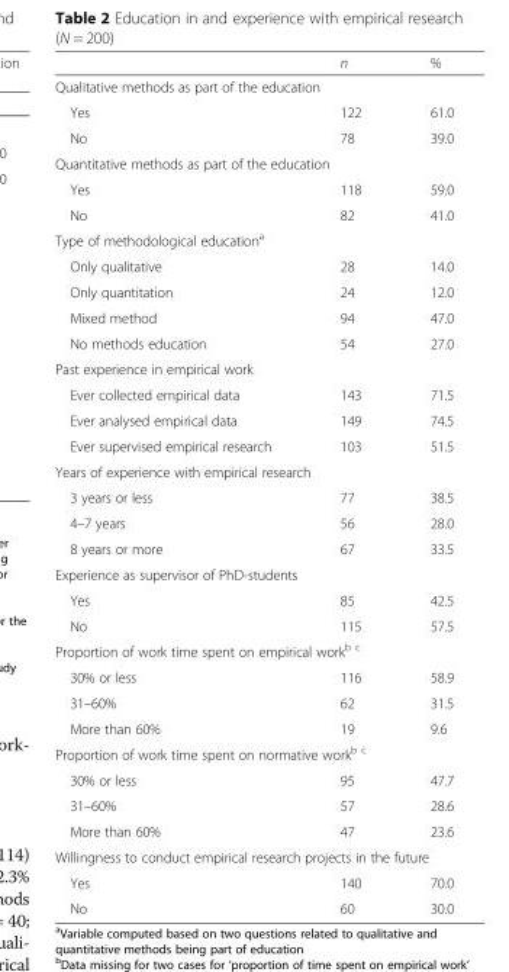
<table><thead><tr><td></td><td>n</td><td>%</td></tr></thead><tbody><tr><td colspan="3">Qualitative methods as part of the education</td></tr><tr><td>Yes</td><td>122</td><td>61.0</td></tr><tr><td>No</td><td>78</td><td>39.0</td></tr><tr><td colspan="3">Quantitative methods as part of the education</td></tr><tr><td>Yes</td><td>118</td><td>59.0</td></tr><tr><td>No</td><td>82</td><td>41.0</td></tr><tr><td colspan="3">Type of methodological education<sup>a</sup></td></tr><tr><td>Only qualitative</td><td>28</td><td>14.0</td></tr><tr><td>Only quantitation</td><td>24</td><td>12.0</td></tr><tr><td>Mixed method</td><td>94</td><td>47.0</td></tr><tr><td>No methods education</td><td>54</td><td>27.0</td></tr><tr><td colspan="3">Past experience in empirical work</td></tr><tr><td>Ever collected empirical data</td><td>143</td><td>71.5</td></tr><tr><td>Ever analysed empirical data</td><td>149</td><td>74.5</td></tr><tr><td>Ever supervised empirical research</td><td>103</td><td>51.5</td></tr><tr><td colspan="3">Years of experience with empirical research</td></tr><tr><td>3 years or less</td><td>77</td><td>38.5</td></tr><tr><td>4–7 years</td><td>56</td><td>28.0</td></tr><tr><td>8 years or more</td><td>67</td><td>33.5</td></tr><tr><td colspan="3">Experience as supervisor of PhD-students</td></tr><tr><td>Yes</td><td>85</td><td>42.5</td></tr><tr><td>No</td><td>115</td><td>57.5</td></tr><tr><td colspan="3">Proportion of work time spent on empirical work<sup>b c</sup></td></tr><tr><td>30% or less</td><td>116</td><td>58.9</td></tr><tr><td>31–60%</td><td>62</td><td>31.5</td></tr><tr><td>More than 60%</td><td>19</td><td>9.6</td></tr><tr><td colspan="3">Proportion of work time spent on normative work<sup>b c</sup></td></tr><tr><td>30% or less</td><td>95</td><td>47.7</td></tr><tr><td>31–60%</td><td>57</td><td>28.6</td></tr><tr><td>More than 60%</td><td>47</td><td>23.6</td></tr><tr><td colspan="3">Willingness to conduct empirical research projects in the future</td></tr><tr><td>Yes</td><td>140</td><td>70.0</td></tr><tr><td>No</td><td>60</td><td>30.0</td></tr></tbody></table>